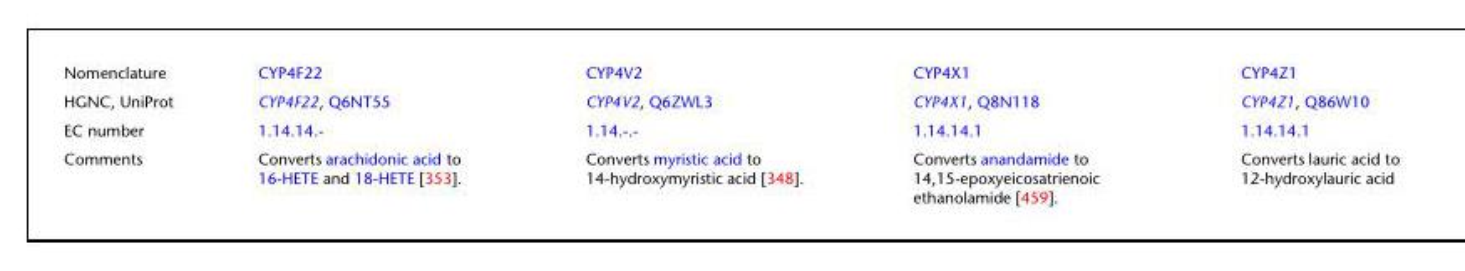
<table><tbody><tr><td>Nomenclature</td><td>CYP4F22</td><td>CYP4V2</td><td>CYP4X1</td><td>CYP4Z1</td></tr><tr><td>HGNC, UniProt</td><td>CYP4F22, Q6NT55</td><td>CYP4V2, Q6ZWL3</td><td>CYP4X1, Q8N118</td><td>CYP4Z1, Q86W10</td></tr><tr><td>EC number</td><td>1.14.14.-</td><td>1.14.-.-</td><td>1.14.14.1</td><td>1.14.14.1</td></tr><tr><td>Comments</td><td>Converts arachidonic acid to 16-HETE and 18-HETE [353].</td><td>Converts myristic acid to 14-hydroxymyristic acid [348].</td><td>Converts anandamide to 14,15-epoxyeicosatrienoic ethanolamide [459].</td><td>Converts lauric acid to 12-hydroxylauric acid</td></tr></tbody></table>